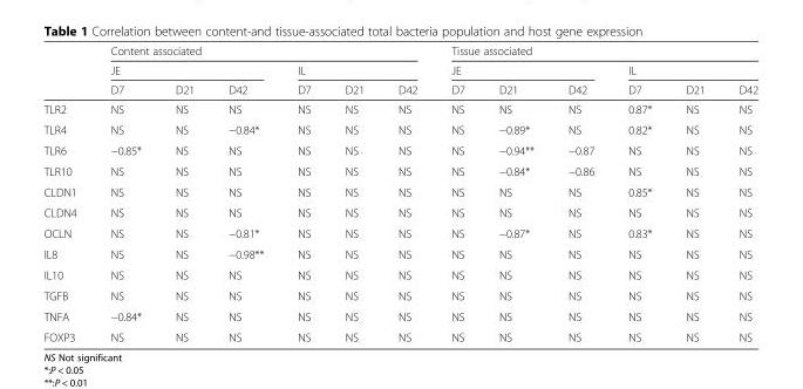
<table><thead><tr><td rowspan="3"></td><td colspan="6">Content associated</td><td colspan="6">Tissue associated</td></tr><tr><td colspan="3">JE</td><td colspan="3">IL</td><td colspan="3">JE</td><td colspan="3">IL</td></tr><tr><td>D7</td><td>D21</td><td>D42</td><td>D7</td><td>D21</td><td>D42</td><td>D7</td><td>D21</td><td>D42</td><td>D7</td><td>D21</td><td>D42</td></tr></thead><tbody><tr><td>TLR2</td><td>NS</td><td>NS</td><td>NS</td><td>NS</td><td>NS</td><td>NS</td><td>NS</td><td>NS</td><td>NS</td><td>0.87*</td><td>NS</td><td>NS</td></tr><tr><td>TLR4</td><td>NS</td><td>NS</td><td>−0.84*</td><td>NS</td><td>NS</td><td>NS</td><td>NS</td><td>−0.89*</td><td>NS</td><td>0.82*</td><td>NS</td><td>NS</td></tr><tr><td>TLR6</td><td>−0.85*</td><td>NS</td><td>NS</td><td>NS</td><td>NS</td><td>NS</td><td>NS</td><td>−0.94**</td><td>−0.87</td><td>NS</td><td>NS</td><td>NS</td></tr><tr><td>TLR10</td><td>NS</td><td>NS</td><td>NS</td><td>NS</td><td>NS</td><td>NS</td><td>NS</td><td>−0.84*</td><td>−0.86</td><td>NS</td><td>NS</td><td>NS</td></tr><tr><td>CLDN1</td><td>NS</td><td>NS</td><td>NS</td><td>NS</td><td>NS</td><td>NS</td><td>NS</td><td>NS</td><td>NS</td><td>0.85*</td><td>NS</td><td>NS</td></tr><tr><td>CLDN4</td><td>NS</td><td>NS</td><td>NS</td><td>NS</td><td>NS</td><td>NS</td><td>NS</td><td>NS</td><td>NS</td><td>NS</td><td>NS</td><td>NS</td></tr><tr><td>OCLN</td><td>NS</td><td>NS</td><td>−0.81*</td><td>NS</td><td>NS</td><td>NS</td><td>NS</td><td>−0.87*</td><td>NS</td><td>0.83*</td><td>NS</td><td>NS</td></tr><tr><td>IL8</td><td>NS</td><td>NS</td><td>−0.98**</td><td>NS</td><td>NS</td><td>NS</td><td>NS</td><td>NS</td><td>NS</td><td>NS</td><td>NS</td><td>NS</td></tr><tr><td>IL10</td><td>NS</td><td>NS</td><td>NS</td><td>NS</td><td>NS</td><td>NS</td><td>NS</td><td>NS</td><td>NS</td><td>NS</td><td>NS</td><td>NS</td></tr><tr><td>TGFB</td><td>NS</td><td>NS</td><td>NS</td><td>NS</td><td>NS</td><td>NS</td><td>NS</td><td>NS</td><td>NS</td><td>NS</td><td>NS</td><td>NS</td></tr><tr><td>TNFA</td><td>−0.84*</td><td>NS</td><td>NS</td><td>NS</td><td>NS</td><td>NS</td><td>NS</td><td>NS</td><td>NS</td><td>NS</td><td>NS</td><td>NS</td></tr><tr><td>FOXP3</td><td>NS</td><td>NS</td><td>NS</td><td>NS</td><td>NS</td><td>NS</td><td>NS</td><td>NS</td><td>NS</td><td>NS</td><td>NS</td><td>NS</td></tr></tbody></table>